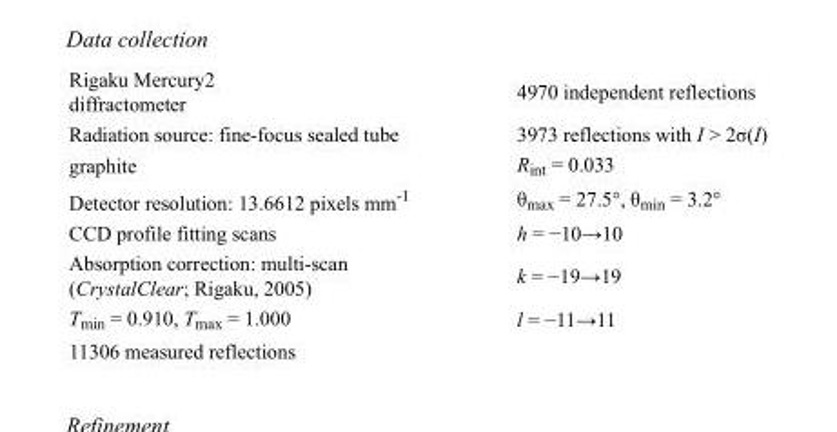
<table><tbody><tr><td>Rigaku Mercury2 diffractometer</td><td>4970 independent reflections</td></tr><tr><td>Radiation source: fine-focus sealed tube</td><td>3973 reflections with I &gt; 2σ(I)</td></tr><tr><td>graphite</td><td>R<sub>int</sub> = 0.033</td></tr><tr><td>Detector resolution: 13.6612 pixels mm<sup>-1</sup></td><td>θ<sub>max</sub> = 27.5°, θ<sub>min</sub> = 3.2°</td></tr><tr><td>CCD profile fitting scans</td><td>h = −10→10</td></tr><tr><td>Absorption correction: multi-scan (CrystalClear; Rigaku, 2005)</td><td>k = −19→19</td></tr><tr><td>T<sub>min</sub> = 0.910, T<sub>max</sub> = 1.000</td><td>l = −11→11</td></tr><tr><td>11306 measured reflections</td><td></td></tr></tbody></table>